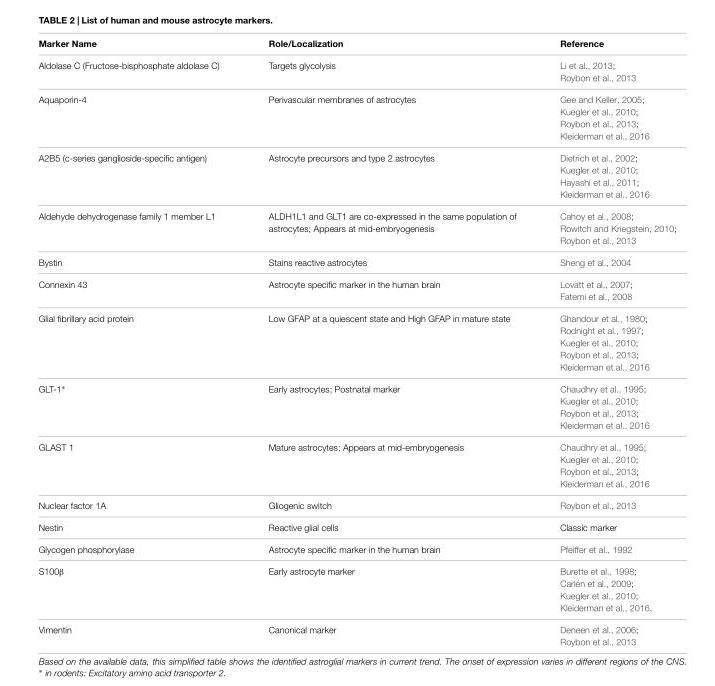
<table><thead><tr><td>Marker Name</td><td>Role/Localization</td><td>Reference</td></tr></thead><tbody><tr><td>Aldolase C (Fructose-bisphosphate aldolase C)</td><td>Targets glycolysis</td><td>Li et al., 2013; Roybon et al., 2013</td></tr><tr><td>Aquaporin-4</td><td>Perivascular membranes of astrocytes</td><td>Gee and Keller, 2005; Kuegler et al., 2010; Roybon et al., 2013; Kleiderman et al., 2016</td></tr><tr><td>A2B5 (c-series ganglioside-specific antigen)</td><td>Astrocyte precursors and type 2 astrocytes</td><td>Dietrich et al., 2002; Kuegler et al., 2010; Hayashi et al., 2011; Kleiderman et al., 2016</td></tr><tr><td>Aldehyde dehydrogenase family 1 member L1</td><td>ALDH1L1 and GLT1 are co-expressed in the same population of astrocytes; Appears at mid-embryogenesis</td><td>Cahoy et al., 2008; Rowitch and Kriegstein, 2010; Roybon et al., 2013</td></tr><tr><td>Bystin</td><td>Stains reactive astrocytes</td><td>Sheng et al., 2004</td></tr><tr><td>Connexin 43</td><td>Astrocyte specific marker in the human brain</td><td>Lovatt et al., 2007; Fatemi et al., 2008</td></tr><tr><td>Glial fibrillary acid protein</td><td>Low GFAP at a quiescent state and High GFAP in mature state</td><td>Ghandour et al., 1980; Rodnight et al., 1997; Kuegler et al., 2010; Roybon et al., 2013; Kleiderman et al., 2016</td></tr><tr><td>GLT-1∗</td><td>Early astrocytes; Postnatal marker</td><td>Chaudhry et al., 1995; Kuegler et al., 2010; Roybon et al., 2013; Kleiderman et al., 2016</td></tr><tr><td>GLAST 1</td><td>Mature astrocytes; Appears at mid-embryogenesis</td><td>Chaudhry et al., 1995; Kuegler et al., 2010; Roybon et al., 2013; Kleiderman et al., 2016</td></tr><tr><td>Nuclear factor 1A</td><td>Gliogenic switch</td><td>Roybon et al., 2013</td></tr><tr><td>Nestin</td><td>Reactive glial cells</td><td>Classic marker</td></tr><tr><td>Glycogen phosphorylase</td><td>Astrocyte specific marker in the human brain</td><td>Pfeiffer et al., 1992</td></tr><tr><td>S100β</td><td>Early astrocyte marker</td><td>Burette et al., 1998; Carlén et al., 2009; Kuegler et al., 2010; Kleiderman et al., 2016.</td></tr><tr><td>Vimentin</td><td>Canonical marker</td><td>Deneen et al., 2006; Roybon et al., 2013</td></tr></tbody></table>